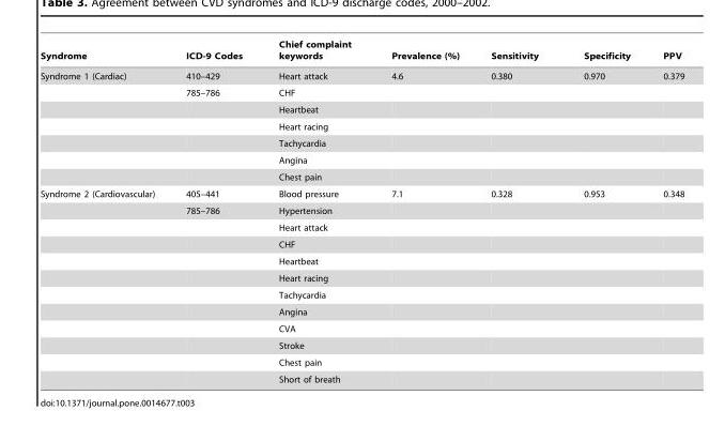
<table><thead><tr><td>Syndrome</td><td>ICD-9 Codes</td><td>Chief complaint keywords</td><td>Prevalence (%)</td><td>Sensitivity</td><td>Specificity</td><td>PPV</td></tr></thead><tbody><tr><td rowspan="7">Syndrome 1 (Cardiac)</td><td>410–429</td><td>Heart attack</td><td>4.6</td><td>0.380</td><td>0.970</td><td>0.379</td></tr><tr><td>785–786</td><td>CHF</td><td></td><td></td><td></td><td></td></tr><tr><td></td><td>Heartbeat</td><td></td><td></td><td></td><td></td></tr><tr><td></td><td>Heart racing</td><td></td><td></td><td></td><td></td></tr><tr><td></td><td>Tachycardia</td><td></td><td></td><td></td><td></td></tr><tr><td></td><td>Angina</td><td></td><td></td><td></td><td></td></tr><tr><td></td><td>Chest pain</td><td></td><td></td><td></td><td></td></tr><tr><td rowspan="12">Syndrome 2 (Cardiovascular)</td><td>405–441</td><td>Blood pressure</td><td>7.1</td><td>0.328</td><td>0.953</td><td>0.348</td></tr><tr><td>785–786</td><td>Hypertension</td><td></td><td></td><td></td><td></td></tr><tr><td></td><td>Heart attack</td><td></td><td></td><td></td><td></td></tr><tr><td></td><td>CHF</td><td></td><td></td><td></td><td></td></tr><tr><td></td><td>Heartbeat</td><td></td><td></td><td></td><td></td></tr><tr><td></td><td>Heart racing</td><td></td><td></td><td></td><td></td></tr><tr><td></td><td>Tachycardia</td><td></td><td></td><td></td><td></td></tr><tr><td></td><td>Angina</td><td></td><td></td><td></td><td></td></tr><tr><td></td><td>CVA</td><td></td><td></td><td></td><td></td></tr><tr><td></td><td>Stroke</td><td></td><td></td><td></td><td></td></tr><tr><td></td><td>Chest pain</td><td></td><td></td><td></td><td></td></tr><tr><td></td><td>Short of breath</td><td></td><td></td><td></td><td></td></tr></tbody></table>